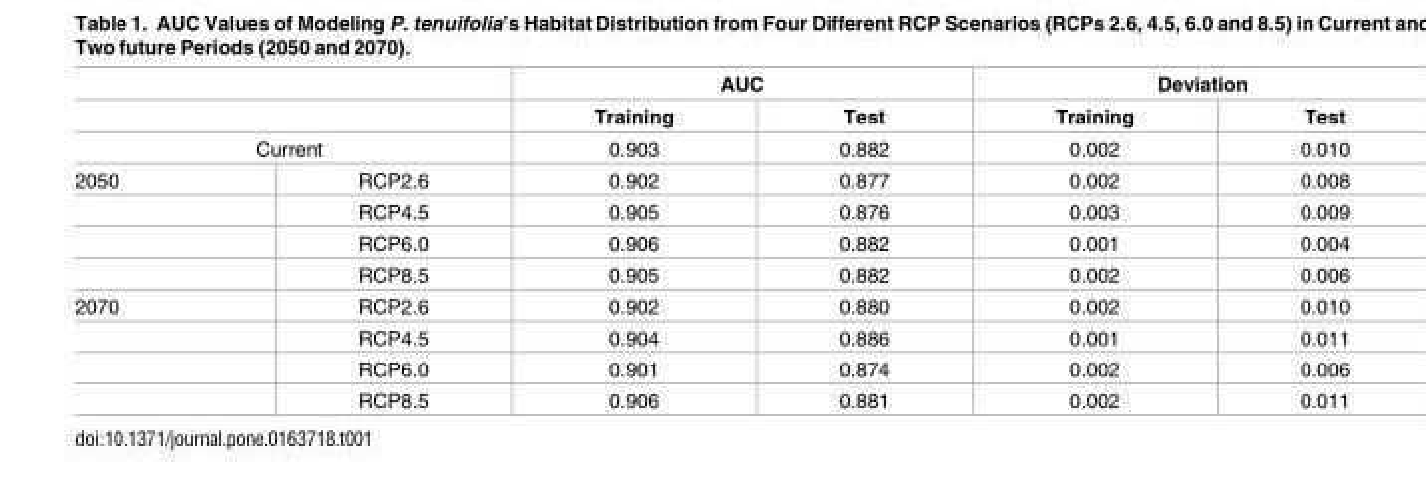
<table><thead><tr><td rowspan="2"></td><td rowspan="2"></td><td colspan="2">AUC</td><td colspan="2">Deviation</td></tr><tr><td>Training</td><td>Test</td><td>Training</td><td>Test</td></tr></thead><tbody><tr><td colspan="2">Current</td><td>0.903</td><td>0.882</td><td>0.002</td><td>0.010</td></tr><tr><td rowspan="4">2050</td><td>RCP2.6</td><td>0.902</td><td>0.877</td><td>0.002</td><td>0.008</td></tr><tr><td>RCP4.5</td><td>0.905</td><td>0.876</td><td>0.003</td><td>0.009</td></tr><tr><td>RCP6.0</td><td>0.906</td><td>0.882</td><td>0.001</td><td>0.004</td></tr><tr><td>RCP8.5</td><td>0.905</td><td>0.882</td><td>0.002</td><td>0.006</td></tr><tr><td rowspan="4">2070</td><td>RCP2.6</td><td>0.902</td><td>0.880</td><td>0.002</td><td>0.010</td></tr><tr><td>RCP4.5</td><td>0.904</td><td>0.886</td><td>0.001</td><td>0.011</td></tr><tr><td>RCP6.0</td><td>0.901</td><td>0.874</td><td>0.002</td><td>0.006</td></tr><tr><td>RCP8.5</td><td>0.906</td><td>0.881</td><td>0.002</td><td>0.011</td></tr></tbody></table>